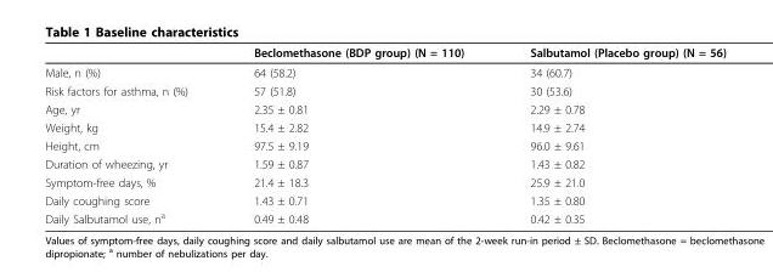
<table><thead><tr><td></td><td>Beclomethasone (BDP group) (N = 110)</td><td>Salbutamol (Placebo group) (N = 56)</td></tr></thead><tbody><tr><td>Male, n (%)</td><td>64 (58.2)</td><td>34 (60.7)</td></tr><tr><td>Risk factors for asthma, n (%)</td><td>57 (51.8)</td><td>30 (53.6)</td></tr><tr><td>Age, yr</td><td>2.35 ± 0.81</td><td>2.29 ± 0.78</td></tr><tr><td>Weight, kg</td><td>15.4 ± 2.82</td><td>14.9 ± 2.74</td></tr><tr><td>Height, cm</td><td>97.5 ± 9.19</td><td>96.0 ± 9.61</td></tr><tr><td>Duration of wheezing, yr</td><td>1.59 ± 0.87</td><td>1.43 ± 0.82</td></tr><tr><td>Symptom-free days, %</td><td>21.4 ± 18.3</td><td>25.9 ± 21.0</td></tr><tr><td>Daily coughing score</td><td>1.43 ± 0.71</td><td>1.35 ± 0.80</td></tr><tr><td>Daily Salbutamol use, n<sup>a</sup></td><td>0.49 ± 0.48</td><td>0.42 ± 0.35</td></tr></tbody></table>